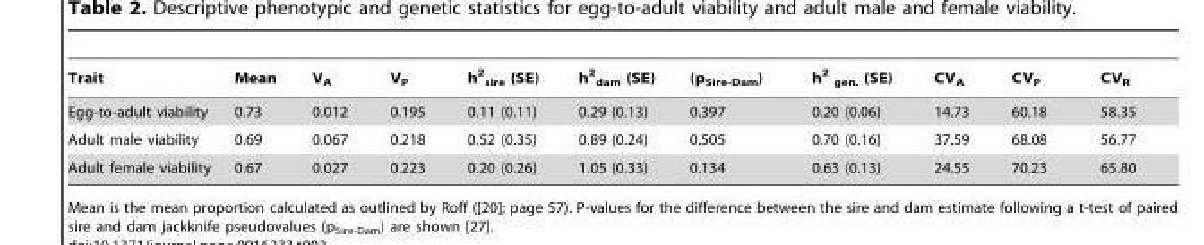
<table><thead><tr><td>Trait</td><td>Mean</td><td>V<sub>A</sub></td><td>V<sub>P</sub></td><td>h<sup>2</sup> <sub>sire</sub> (SE)</td><td>h<sup>2</sup> <sub>dam</sub> (SE)</td><td>(p<sub>Sire-Dam</sub>)</td><td>h<sup>2</sup> <sub>gen.</sub> (SE)</td><td>CV<sub>A</sub></td><td>CV<sub>P</sub></td><td>CV<sub>R</sub></td></tr></thead><tbody><tr><td>Egg-to-adult viability</td><td>0.73</td><td>0.012</td><td>0.195</td><td>0.11 (0.11)</td><td>0.29 (0.13)</td><td>0.397</td><td>0.20 (0.06)</td><td>14.73</td><td>60.18</td><td>58.35</td></tr><tr><td>Adult male viability</td><td>0.69</td><td>0.067</td><td>0.218</td><td>0.52 (0.35)</td><td>0.89 (0.24)</td><td>0.505</td><td>0.70 (0.16)</td><td>37.59</td><td>68.08</td><td>56.77</td></tr><tr><td>Adult female viability</td><td>0.67</td><td>0.027</td><td>0.223</td><td>0.20 (0.26)</td><td>1.05 (0.33)</td><td>0.134</td><td>0.63 (0.13)</td><td>24.55</td><td>70.23</td><td>65.80</td></tr></tbody></table>